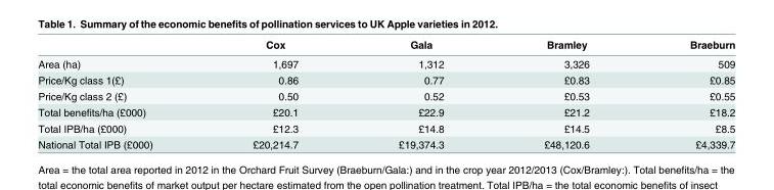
<table><thead><tr><td></td><td>Cox</td><td>Gala</td><td>Bramley</td><td>Braeburn</td></tr></thead><tbody><tr><td>Area (ha)</td><td>1,697</td><td>1,312</td><td>3,326</td><td>509</td></tr><tr><td>Price/Kg class 1(£)</td><td>0.86</td><td>0.77</td><td>£0.83</td><td>£0.85</td></tr><tr><td>Price/Kg class 2 (£)</td><td>0.50</td><td>0.52</td><td>£0.53</td><td>£0.55</td></tr><tr><td>Total benefits/ha (£000)</td><td>£20.1</td><td>£22.9</td><td>£21.2</td><td>£18.2</td></tr><tr><td>Total IPB/ha (£000)</td><td>£12.3</td><td>£14.8</td><td>£14.5</td><td>£8.5</td></tr><tr><td>National Total IPB (£000)</td><td>£20,214.7</td><td>£19,374.3</td><td>£48,120.6</td><td>£4,339.7</td></tr></tbody></table>